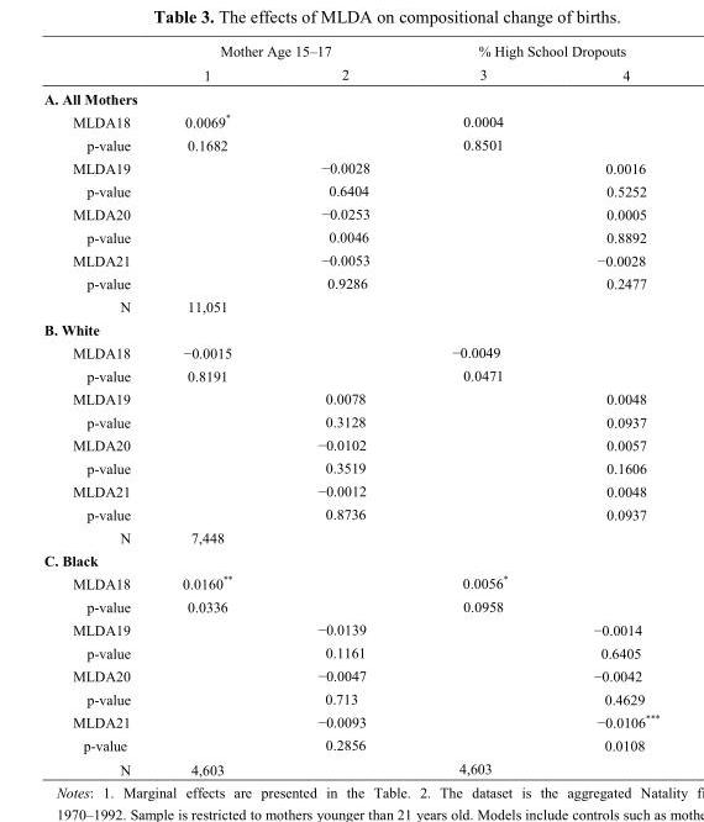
<table><thead><tr><td rowspan="2"></td><td colspan="2">Mother Age 15–17</td><td colspan="2">% High School Dropouts</td></tr><tr><td>1</td><td>2</td><td>3</td><td>4</td></tr></thead><tbody><tr><td colspan="5">A. All Mothers</td></tr><tr><td>MLDA18</td><td>0.0069*</td><td></td><td>0.0004</td><td></td></tr><tr><td>p-value</td><td>0.1682</td><td></td><td>0.8501</td><td></td></tr><tr><td>MLDA19</td><td></td><td>−0.0028</td><td></td><td>0.0016</td></tr><tr><td>p-value</td><td></td><td>0.6404</td><td></td><td>0.5252</td></tr><tr><td>MLDA20</td><td></td><td>−0.0253</td><td></td><td>0.0005</td></tr><tr><td>p-value</td><td></td><td>0.0046</td><td></td><td>0.8892</td></tr><tr><td>MLDA21</td><td></td><td>−0.0053</td><td></td><td>−0.0028</td></tr><tr><td>p-value</td><td></td><td>0.9286</td><td></td><td>0.2477</td></tr><tr><td>N</td><td>11,051</td><td></td><td></td><td></td></tr><tr><td colspan="5">B. White</td></tr><tr><td>MLDA18</td><td>−0.0015</td><td></td><td>−0.0049</td><td></td></tr><tr><td>p-value</td><td>0.8191</td><td></td><td>0.0471</td><td></td></tr><tr><td>MLDA19</td><td></td><td>0.0078</td><td></td><td>0.0048</td></tr><tr><td>p-value</td><td></td><td>0.3128</td><td></td><td>0.0937</td></tr><tr><td>MLDA20</td><td></td><td>−0.0102</td><td></td><td>0.0057</td></tr><tr><td>p-value</td><td></td><td>0.3519</td><td></td><td>0.1606</td></tr><tr><td>MLDA21</td><td></td><td>−0.0012</td><td></td><td>0.0048</td></tr><tr><td>p-value</td><td></td><td>0.8736</td><td></td><td>0.0937</td></tr><tr><td>N</td><td>7,448</td><td></td><td></td><td></td></tr><tr><td colspan="5">C. Black</td></tr><tr><td>MLDA18</td><td>0.0160**</td><td></td><td>0.0056*</td><td></td></tr><tr><td>p-value</td><td>0.0336</td><td></td><td>0.0958</td><td></td></tr><tr><td>MLDA19</td><td></td><td>−0.0139</td><td></td><td>−0.0014</td></tr><tr><td>p-value</td><td></td><td>0.1161</td><td></td><td>0.6405</td></tr><tr><td>MLDA20</td><td></td><td>−0.0047</td><td></td><td>−0.0042</td></tr><tr><td>p-value</td><td></td><td>0.713</td><td></td><td>0.4629</td></tr><tr><td>MLDA21</td><td></td><td>−0.0093</td><td></td><td>−0.0106***</td></tr><tr><td>p-value</td><td></td><td>0.2856</td><td></td><td>0.0108</td></tr><tr><td>N</td><td>4,603</td><td></td><td>4,603</td><td></td></tr></tbody></table>